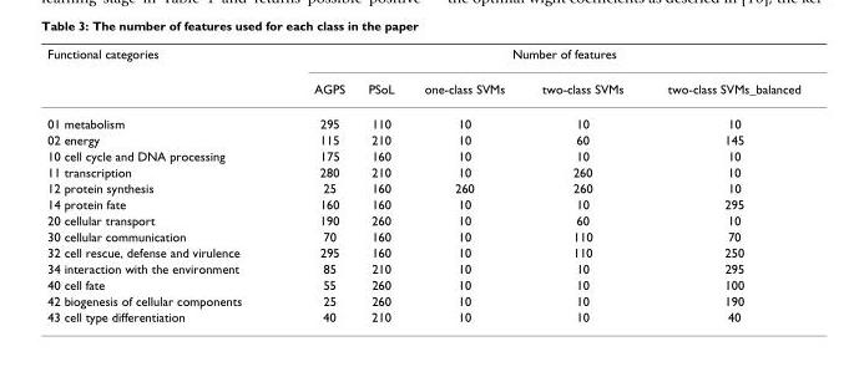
<table><thead><tr><td rowspan="2">Functional categories</td><td colspan="5">Number of features</td></tr><tr><td>AGPS</td><td>PSoL</td><td>one-class SVMs</td><td>two-class SVMs</td><td>two-class SVMs_balanced</td></tr></thead><tbody><tr><td>01 metabolism</td><td>295</td><td>110</td><td>10</td><td>10</td><td>10</td></tr><tr><td>02 energy</td><td>115</td><td>210</td><td>10</td><td>60</td><td>145</td></tr><tr><td>10 cell cycle and DNA processing</td><td>175</td><td>160</td><td>10</td><td>10</td><td>10</td></tr><tr><td>11 transcription</td><td>280</td><td>210</td><td>10</td><td>260</td><td>10</td></tr><tr><td>12 protein synthesis</td><td>25</td><td>160</td><td>260</td><td>260</td><td>10</td></tr><tr><td>14 protein fate</td><td>160</td><td>160</td><td>10</td><td>10</td><td>295</td></tr><tr><td>20 cellular transport</td><td>190</td><td>260</td><td>10</td><td>60</td><td>10</td></tr><tr><td>30 cellular communication</td><td>70</td><td>160</td><td>10</td><td>110</td><td>70</td></tr><tr><td>32 cell rescue, defense and virulence</td><td>295</td><td>160</td><td>10</td><td>110</td><td>250</td></tr><tr><td>34 interaction with the environment</td><td>85</td><td>210</td><td>10</td><td>10</td><td>295</td></tr><tr><td>40 cell fate</td><td>55</td><td>260</td><td>10</td><td>10</td><td>100</td></tr><tr><td>42 biogenesis of cellular components</td><td>25</td><td>260</td><td>10</td><td>10</td><td>190</td></tr><tr><td>43 cell type differentiation</td><td>40</td><td>210</td><td>10</td><td>10</td><td>40</td></tr></tbody></table>